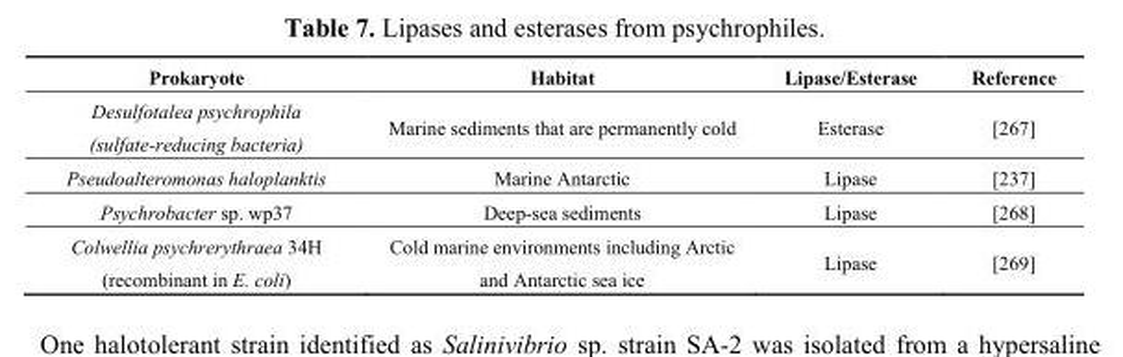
<table><thead><tr><td>Prokaryote</td><td>Habitat</td><td>Lipase/Esterase</td><td>Reference</td></tr></thead><tbody><tr><td>Desulfotalea psychrophila (sulfate-reducing bacteria)</td><td>Marine sediments that are permanently cold</td><td>Esterase</td><td>[267]</td></tr><tr><td>Pseudoalteromonas haloplanktis</td><td>Marine Antarctic</td><td>Lipase</td><td>[237]</td></tr><tr><td>Psychrobacter sp. wp37</td><td>Deep-sea sediments</td><td>Lipase</td><td>[268]</td></tr><tr><td>Colwellia psychrerythraea 34H (recombinant in E. coli)</td><td>Cold marine environments including Arctic and Antarctic sea ice</td><td>Lipase</td><td>[269]</td></tr></tbody></table>